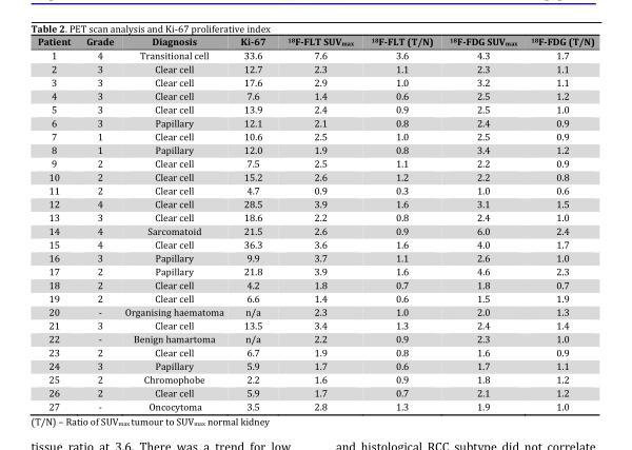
<table><thead><tr><td>Patient</td><td>Grade</td><td>Diagnosis</td><td>Ki-67</td><td><sup>18</sup>F-FLT SUV<sub>max</sub></td><td><sup>18</sup>F-FLT (T/N)</td><td><sup>18</sup>F-FDG SUV<sub>max</sub></td><td><sup>18</sup>F-FDG (T/N)</td></tr></thead><tbody><tr><td>1</td><td>4</td><td>Transitional cell</td><td>33.6</td><td>7.6</td><td>3.6</td><td>4.3</td><td>1.7</td></tr><tr><td>2</td><td>3</td><td>Clear cell</td><td>12.7</td><td>2.3</td><td>1.1</td><td>2.3</td><td>1.1</td></tr><tr><td>3</td><td>3</td><td>Clear cell</td><td>17.6</td><td>2.9</td><td>1.0</td><td>3.2</td><td>1.1</td></tr><tr><td>4</td><td>3</td><td>Clear cell</td><td>7.6</td><td>1.4</td><td>0.6</td><td>2.5</td><td>1.2</td></tr><tr><td>5</td><td>3</td><td>Clear cell</td><td>13.9</td><td>2.4</td><td>0.9</td><td>2.5</td><td>1.0</td></tr><tr><td>6</td><td>3</td><td>Papillary</td><td>12.1</td><td>2.1</td><td>0.8</td><td>2.4</td><td>0.9</td></tr><tr><td>7</td><td>1</td><td>Clear cell</td><td>10.6</td><td>2.5</td><td>1.0</td><td>2.5</td><td>0.9</td></tr><tr><td>8</td><td>1</td><td>Papillary</td><td>12.0</td><td>1.9</td><td>0.8</td><td>3.4</td><td>1.2</td></tr><tr><td>9</td><td>2</td><td>Clear cell</td><td>7.5</td><td>2.5</td><td>1.1</td><td>2.2</td><td>0.9</td></tr><tr><td>10</td><td>2</td><td>Clear cell</td><td>15.2</td><td>2.6</td><td>1.2</td><td>2.2</td><td>0.8</td></tr><tr><td>11</td><td>2</td><td>Clear cell</td><td>4.7</td><td>0.9</td><td>0.3</td><td>1.0</td><td>0.6</td></tr><tr><td>12</td><td>4</td><td>Clear cell</td><td>28.5</td><td>3.9</td><td>1.6</td><td>3.1</td><td>1.5</td></tr><tr><td>13</td><td>3</td><td>Clear cell</td><td>18.6</td><td>2.2</td><td>0.8</td><td>2.4</td><td>1.0</td></tr><tr><td>14</td><td>4</td><td>Sarcomatoid</td><td>21.5</td><td>2.6</td><td>0.9</td><td>6.0</td><td>2.4</td></tr><tr><td>15</td><td>4</td><td>Clear cell</td><td>36.3</td><td>3.6</td><td>1.6</td><td>4.0</td><td>1.7</td></tr><tr><td>16</td><td>3</td><td>Papillary</td><td>9.9</td><td>3.7</td><td>1.1</td><td>2.6</td><td>1.0</td></tr><tr><td>17</td><td>2</td><td>Papillary</td><td>21.8</td><td>3.9</td><td>1.6</td><td>4.6</td><td>2.3</td></tr><tr><td>18</td><td>2</td><td>Clear cell</td><td>4.2</td><td>1.8</td><td>0.7</td><td>1.8</td><td>0.7</td></tr><tr><td>19</td><td>2</td><td>Clear cell</td><td>6.6</td><td>1.4</td><td>0.6</td><td>1.5</td><td>1.9</td></tr><tr><td>20</td><td>-</td><td>Organising haematoma</td><td>n/a</td><td>2.3</td><td>1.0</td><td>2.0</td><td>1.3</td></tr><tr><td>21</td><td>3</td><td>Clear cell</td><td>13.5</td><td>3.4</td><td>1.3</td><td>2.4</td><td>1.4</td></tr><tr><td>22</td><td>-</td><td>Benign hamartoma</td><td>n/a</td><td>2.2</td><td>0.9</td><td>2.3</td><td>1.0</td></tr><tr><td>23</td><td>2</td><td>Clear cell</td><td>6.7</td><td>1.9</td><td>0.8</td><td>1.6</td><td>0.9</td></tr><tr><td>24</td><td>3</td><td>Papillary</td><td>5.9</td><td>1.7</td><td>0.6</td><td>1.7</td><td>1.1</td></tr><tr><td>25</td><td>2</td><td>Chromophobe</td><td>2.2</td><td>1.6</td><td>0.9</td><td>1.8</td><td>1.2</td></tr><tr><td>26</td><td>2</td><td>Clear cell</td><td>5.9</td><td>1.7</td><td>0.7</td><td>2.1</td><td>1.2</td></tr><tr><td>27</td><td>-</td><td>Oncocytoma</td><td>3.5</td><td>2.8</td><td>1.3</td><td>1.9</td><td>1.0</td></tr></tbody></table>